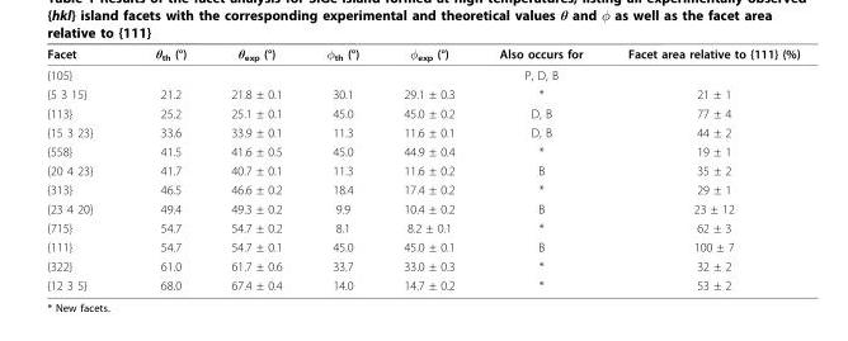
<table><thead><tr><td>Facet</td><td>θ<sub>th</sub> (°)</td><td>θ<sub>exp</sub> (°)</td><td>φ<sub>th</sub> (°)</td><td>φ<sub>exp</sub> (°)</td><td>Also occurs for</td><td>Facet area relative to {111} (%)</td></tr></thead><tbody><tr><td>{105}</td><td></td><td></td><td></td><td></td><td>P, D, B</td><td></td></tr><tr><td>{5 3 15}</td><td>21.2</td><td>21.8 ± 0.1</td><td>30.1</td><td>29.1 ± 0.3</td><td>*</td><td>21 ± 1</td></tr><tr><td>{113}</td><td>25.2</td><td>25.1 ± 0.1</td><td>45.0</td><td>45.0 ± 0.2</td><td>D, B</td><td>77 ± 4</td></tr><tr><td>{15 3 23}</td><td>33.6</td><td>33.9 ± 0.1</td><td>11.3</td><td>11.6 ± 0.1</td><td>D, B</td><td>44 ± 2</td></tr><tr><td>{558}</td><td>41.5</td><td>41.6 ± 0.5</td><td>45.0</td><td>44.9 ± 0.4</td><td>*</td><td>19 ± 1</td></tr><tr><td>{20 4 23}</td><td>41.7</td><td>40.7 ± 0.1</td><td>11.3</td><td>11.6 ± 0.2</td><td>B</td><td>35 ± 2</td></tr><tr><td>{313}</td><td>46.5</td><td>46.6 ± 0.2</td><td>18.4</td><td>17.4 ± 0.2</td><td>*</td><td>29 ± 1</td></tr><tr><td>{23 4 20}</td><td>49.4</td><td>49.3 ± 0.2</td><td>9.9</td><td>10.4 ± 0.2</td><td>B</td><td>23 ± 12</td></tr><tr><td>{715}</td><td>54.7</td><td>54.7 ± 0.2</td><td>8.1</td><td>8.2 ± 0.1</td><td>*</td><td>62 ± 3</td></tr><tr><td>{111}</td><td>54.7</td><td>54.7 ± 0.1</td><td>45.0</td><td>45.0 ± 0.1</td><td>B</td><td>100 ± 7</td></tr><tr><td>{322}</td><td>61.0</td><td>61.7 ± 0.6</td><td>33.7</td><td>33.0 ± 0.3</td><td>*</td><td>32 ± 2</td></tr><tr><td>{12 3 5}</td><td>68.0</td><td>67.4 ± 0.4</td><td>14.0</td><td>14.7 ± 0.2</td><td>*</td><td>53 ± 2</td></tr></tbody></table>